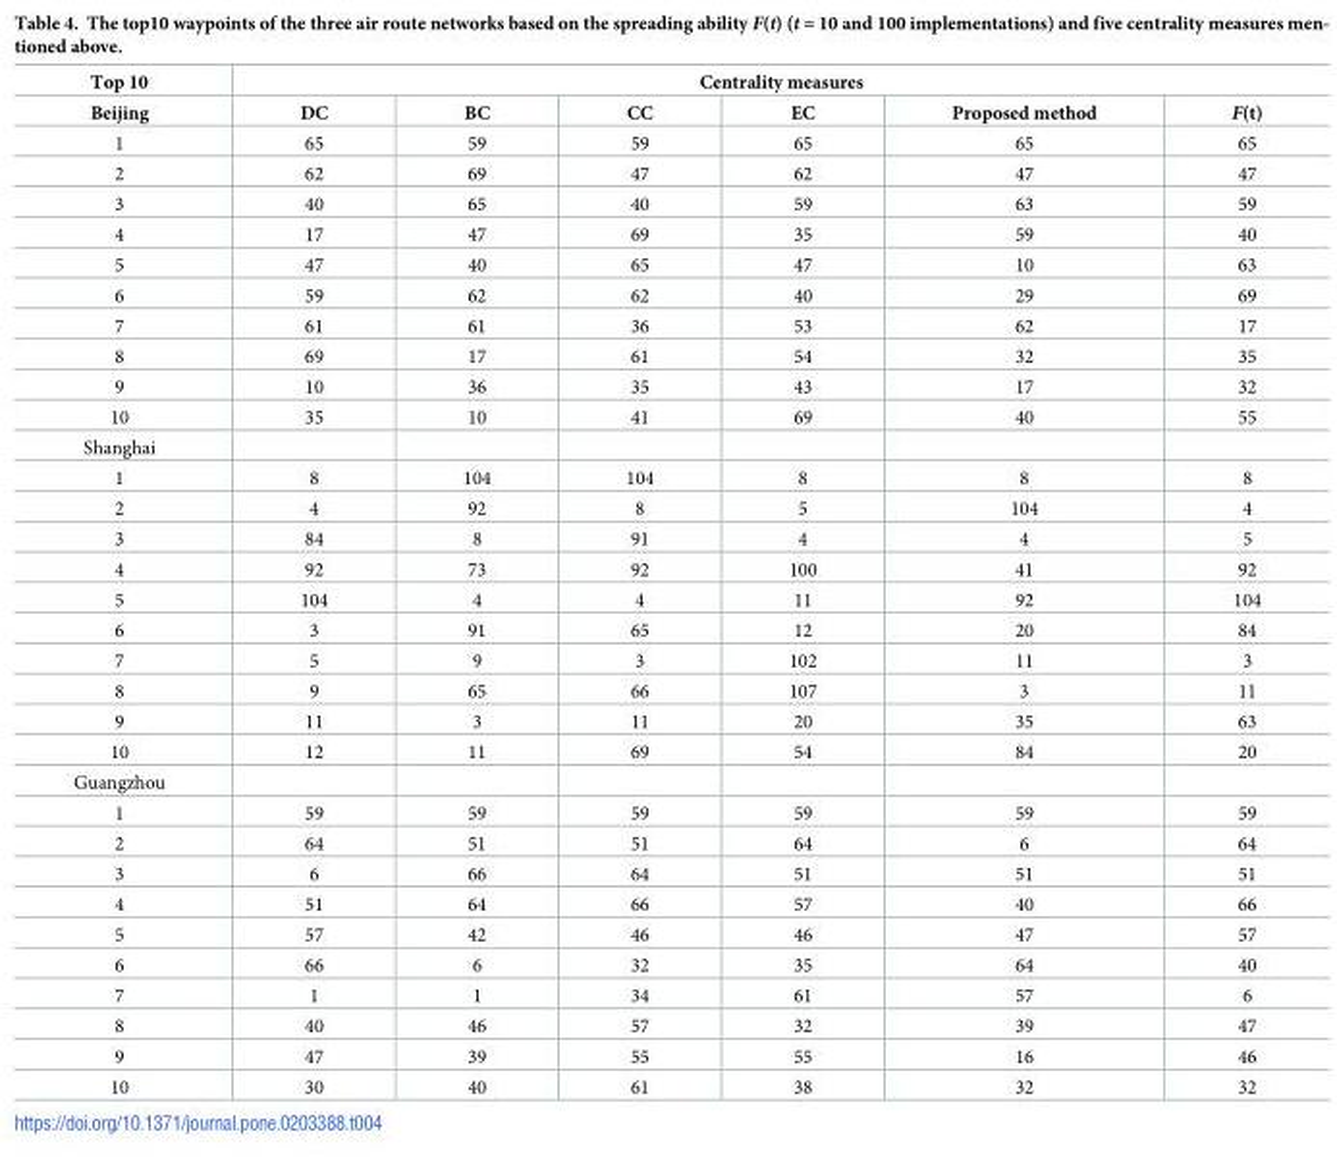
<table><thead><tr><td rowspan="2">Top 10 Beijing</td><td colspan="6">Centrality measures</td></tr><tr><td>DC</td><td>BC</td><td>CC</td><td>EC</td><td>Proposed method</td><td>F(t)</td></tr></thead><tbody><tr><td>1</td><td>65</td><td>59</td><td>59</td><td>65</td><td>65</td><td>65</td></tr><tr><td>2</td><td>62</td><td>69</td><td>47</td><td>62</td><td>47</td><td>47</td></tr><tr><td>3</td><td>40</td><td>65</td><td>40</td><td>59</td><td>63</td><td>59</td></tr><tr><td>4</td><td>17</td><td>47</td><td>69</td><td>35</td><td>59</td><td>40</td></tr><tr><td>5</td><td>47</td><td>40</td><td>65</td><td>47</td><td>10</td><td>63</td></tr><tr><td>6</td><td>59</td><td>62</td><td>62</td><td>40</td><td>29</td><td>69</td></tr><tr><td>7</td><td>61</td><td>61</td><td>36</td><td>53</td><td>62</td><td>17</td></tr><tr><td>8</td><td>69</td><td>17</td><td>61</td><td>54</td><td>32</td><td>35</td></tr><tr><td>9</td><td>10</td><td>36</td><td>35</td><td>43</td><td>17</td><td>32</td></tr><tr><td>10</td><td>35</td><td>10</td><td>41</td><td>69</td><td>40</td><td>55</td></tr><tr><td colspan="7">Shanghai</td></tr><tr><td>1</td><td>8</td><td>104</td><td>104</td><td>8</td><td>8</td><td>8</td></tr><tr><td>2</td><td>4</td><td>92</td><td>8</td><td>5</td><td>104</td><td>4</td></tr><tr><td>3</td><td>84</td><td>8</td><td>91</td><td>4</td><td>4</td><td>5</td></tr><tr><td>4</td><td>92</td><td>73</td><td>92</td><td>100</td><td>41</td><td>92</td></tr><tr><td>5</td><td>104</td><td>4</td><td>4</td><td>11</td><td>92</td><td>104</td></tr><tr><td>6</td><td>3</td><td>91</td><td>65</td><td>12</td><td>20</td><td>84</td></tr><tr><td>7</td><td>5</td><td>9</td><td>3</td><td>102</td><td>11</td><td>3</td></tr><tr><td>8</td><td>9</td><td>65</td><td>66</td><td>107</td><td>3</td><td>11</td></tr><tr><td>9</td><td>11</td><td>3</td><td>11</td><td>20</td><td>35</td><td>63</td></tr><tr><td>10</td><td>12</td><td>11</td><td>69</td><td>54</td><td>84</td><td>20</td></tr><tr><td colspan="7">Guangzhou</td></tr><tr><td>1</td><td>59</td><td>59</td><td>59</td><td>59</td><td>59</td><td>59</td></tr><tr><td>2</td><td>64</td><td>51</td><td>51</td><td>64</td><td>6</td><td>64</td></tr><tr><td>3</td><td>6</td><td>66</td><td>64</td><td>51</td><td>51</td><td>51</td></tr><tr><td>4</td><td>51</td><td>64</td><td>66</td><td>57</td><td>40</td><td>66</td></tr><tr><td>5</td><td>57</td><td>42</td><td>46</td><td>46</td><td>47</td><td>57</td></tr><tr><td>6</td><td>66</td><td>6</td><td>32</td><td>35</td><td>64</td><td>40</td></tr><tr><td>7</td><td>1</td><td>1</td><td>34</td><td>61</td><td>57</td><td>6</td></tr><tr><td>8</td><td>40</td><td>46</td><td>57</td><td>32</td><td>39</td><td>47</td></tr><tr><td>9</td><td>47</td><td>39</td><td>55</td><td>55</td><td>16</td><td>46</td></tr><tr><td>10</td><td>30</td><td>40</td><td>61</td><td>38</td><td>32</td><td>32</td></tr></tbody></table>